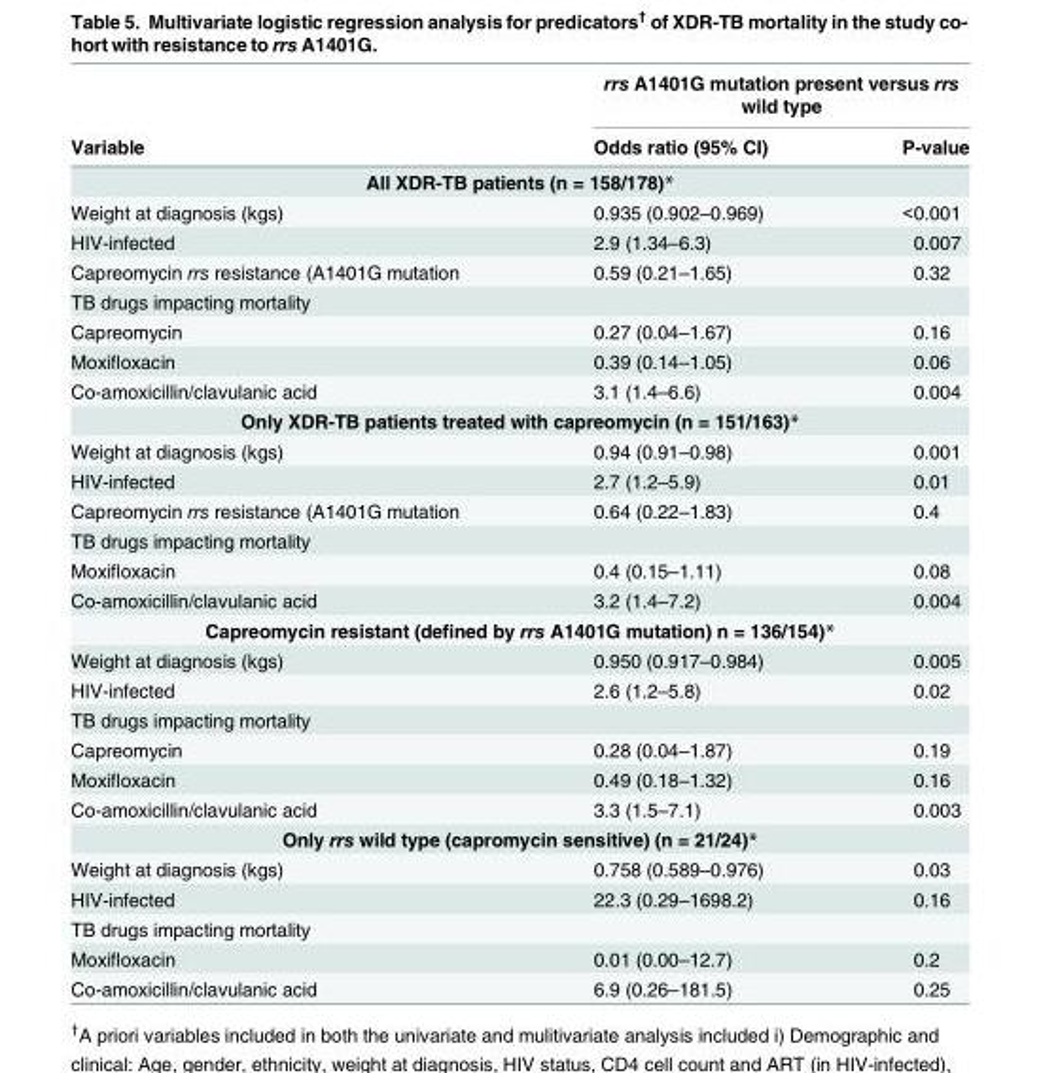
<table><thead><tr><td rowspan="2">Variable</td><td colspan="2">rrs A1401G mutation present versus rrs wild type</td></tr><tr><td>Odds ratio (95% CI)</td><td>P-value</td></tr></thead><tbody><tr><td colspan="3">All XDR-TB patients (n = 158/178)*</td></tr><tr><td>Weight at diagnosis (kgs)</td><td>0.935 (0.902–0.969)</td><td>&lt;0.001</td></tr><tr><td>HIV-infected</td><td>2.9 (1.34–6.3)</td><td>0.007</td></tr><tr><td>Capreomycin rrs resistance (A1401G mutation</td><td>0.59 (0.21–1.65)</td><td>0.32</td></tr><tr><td colspan="3">TB drugs impacting mortality</td></tr><tr><td>Capreomycin</td><td>0.27 (0.04–1.67)</td><td>0.16</td></tr><tr><td>Moxifloxacin</td><td>0.39 (0.14–1.05)</td><td>0.06</td></tr><tr><td>Co-amoxicillin/clavulanic acid</td><td>3.1 (1.4–6.6)</td><td>0.004</td></tr><tr><td colspan="3">Only XDR-TB patients treated with capreomycin (n = 151/163)*</td></tr><tr><td>Weight at diagnosis (kgs)</td><td>0.94 (0.91–0.98)</td><td>0.001</td></tr><tr><td>HIV-infected</td><td>2.7 (1.2–5.9)</td><td>0.01</td></tr><tr><td>Capreomycin rrs resistance (A1401G mutation</td><td>0.64 (0.22–1.83)</td><td>0.4</td></tr><tr><td colspan="3">TB drugs impacting mortality</td></tr><tr><td>Moxifloxacin</td><td>0.4 (0.15–1.11)</td><td>0.08</td></tr><tr><td>Co-amoxicillin/clavulanic acid</td><td>3.2 (1.4–7.2)</td><td>0.004</td></tr><tr><td colspan="3">Capreomycin resistant (defined by rrs A1401G mutation) n = 136/154)*</td></tr><tr><td>Weight at diagnosis (kgs)</td><td>0.950 (0.917–0.984)</td><td>0.005</td></tr><tr><td>HIV-infected</td><td>2.6 (1.2–5.8)</td><td>0.02</td></tr><tr><td colspan="3">TB drugs impacting mortality</td></tr><tr><td>Capreomycin</td><td>0.28 (0.04–1.87)</td><td>0.19</td></tr><tr><td>Moxifloxacin</td><td>0.49 (0.18–1.32)</td><td>0.16</td></tr><tr><td>Co-amoxicillin/clavulanic acid</td><td>3.3 (1.5–7.1)</td><td>0.003</td></tr><tr><td colspan="3">Only rrs wild type (capromycin sensitive) (n = 21/24)*</td></tr><tr><td>Weight at diagnosis (kgs)</td><td>0.758 (0.589–0.976)</td><td>0.03</td></tr><tr><td>HIV-infected</td><td>22.3 (0.29–1698.2)</td><td>0.16</td></tr><tr><td colspan="3">TB drugs impacting mortality</td></tr><tr><td>Moxifloxacin</td><td>0.01 (0.00–12.7)</td><td>0.2</td></tr><tr><td>Co-amoxicillin/clavulanic acid</td><td>6.9 (0.26–181.5)</td><td>0.25</td></tr></tbody></table>